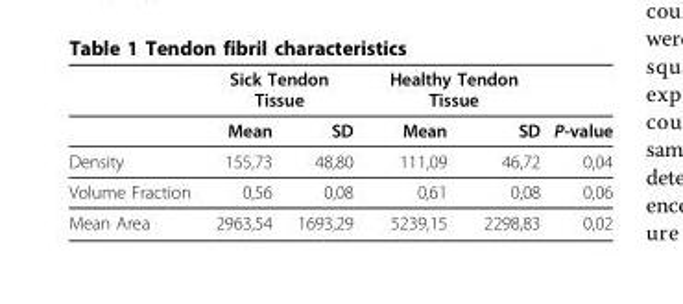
<table><thead><tr><td rowspan="2"></td><td colspan="2">Sick Tendon Tissue</td><td colspan="2">Healthy Tendon Tissue</td><td rowspan="2">P-value</td></tr><tr><td>Mean</td><td>SD</td><td>Mean</td><td>SD</td></tr></thead><tbody><tr><td>Density</td><td>155,73</td><td>48,80</td><td>111,09</td><td>46,72</td><td>0,04</td></tr><tr><td>Volume Fraction</td><td>0,56</td><td>0,08</td><td>0,61</td><td>0,08</td><td>0,06</td></tr><tr><td>Mean Area</td><td>2963,54</td><td>1693,29</td><td>5239,15</td><td>2298,83</td><td>0,02</td></tr></tbody></table>